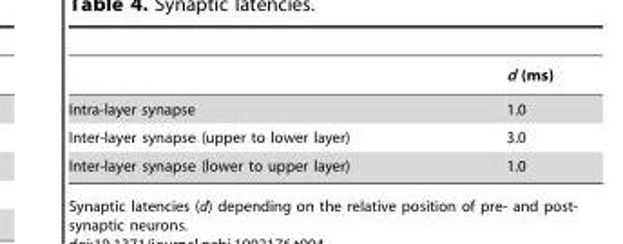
<table><thead><tr><td></td><td>d (ms)</td></tr></thead><tbody><tr><td>Intra-layer synapse</td><td>1.0</td></tr><tr><td>Inter-layer synapse (upper to lower layer)</td><td>3.0</td></tr><tr><td>Inter-layer synapse (lower to upper layer)</td><td>1.0</td></tr></tbody></table>